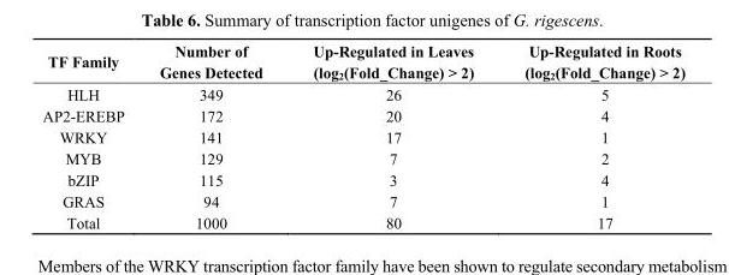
<table><thead><tr><td>TF Family</td><td>Number of Genes Detected</td><td>Up-Regulated in Leaves (log<sub>2</sub>(Fold_Change) &gt; 2)</td><td>Up-Regulated in Roots (log<sub>2</sub>(Fold_Change) &gt; 2)</td></tr></thead><tbody><tr><td>HLH</td><td>349</td><td>26</td><td>5</td></tr><tr><td>AP2-EREBP</td><td>172</td><td>20</td><td>4</td></tr><tr><td>WRKY</td><td>141</td><td>17</td><td>1</td></tr><tr><td>MYB</td><td>129</td><td>7</td><td>2</td></tr><tr><td>bZIP</td><td>115</td><td>3</td><td>4</td></tr><tr><td>GRAS</td><td>94</td><td>7</td><td>1</td></tr><tr><td>Total</td><td>1000</td><td>80</td><td>17</td></tr></tbody></table>